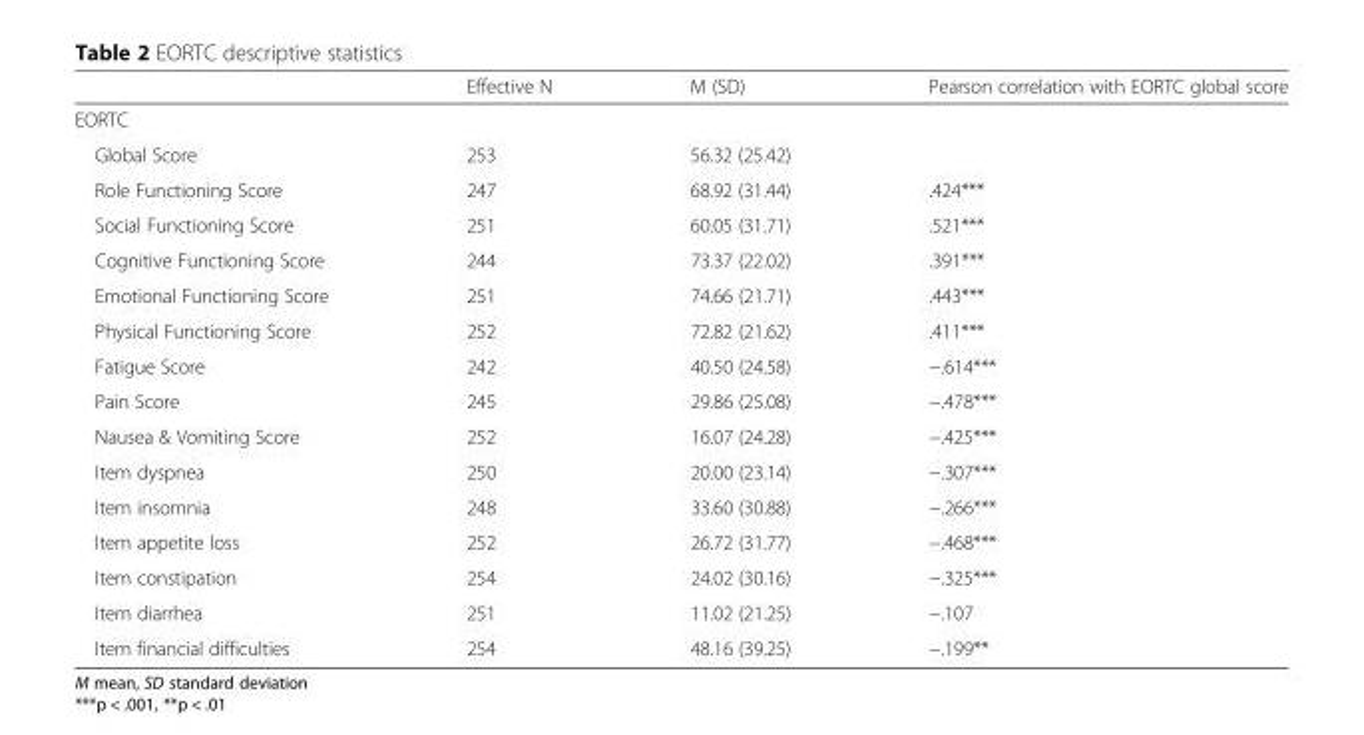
<table><thead><tr><td></td><td>Effective N</td><td>M (SD)</td><td>Pearson correlation with EORTC global score</td></tr></thead><tbody><tr><td colspan="4">EORTC</td></tr><tr><td>Global Score</td><td>253</td><td>56.32 (25.42)</td><td></td></tr><tr><td>Role Functioning Score</td><td>247</td><td>68.92 (31.44)</td><td>.424***</td></tr><tr><td>Social Functioning Score</td><td>251</td><td>60.05 (31.71)</td><td>.521***</td></tr><tr><td>Cognitive Functioning Score</td><td>244</td><td>73.37 (22.02)</td><td>.391***</td></tr><tr><td>Emotional Functioning Score</td><td>251</td><td>74.66 (21.71)</td><td>.443***</td></tr><tr><td>Physical Functioning Score</td><td>252</td><td>72.82 (21.62)</td><td>.411***</td></tr><tr><td>Fatigue Score</td><td>242</td><td>40.50 (24.58)</td><td>−.614***</td></tr><tr><td>Pain Score</td><td>245</td><td>29.86 (25.08)</td><td>−.478***</td></tr><tr><td>Nausea &amp; Vomiting Score</td><td>252</td><td>16.07 (24.28)</td><td>−.425***</td></tr><tr><td>Item dyspnea</td><td>250</td><td>20.00 (23.14)</td><td>−.307***</td></tr><tr><td>Item insomnia</td><td>248</td><td>33.60 (30.88)</td><td>−.266***</td></tr><tr><td>Item appetite loss</td><td>252</td><td>26.72 (31.77)</td><td>−.468***</td></tr><tr><td>Item constipation</td><td>254</td><td>24.02 (30.16)</td><td>−.325***</td></tr><tr><td>Item diarrhea</td><td>251</td><td>11.02 (21.25)</td><td>−.107</td></tr><tr><td>Item financial difficulties</td><td>254</td><td>48.16 (39.25)</td><td>−.199**</td></tr></tbody></table>